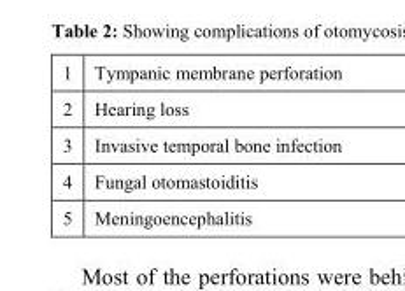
<table><tbody><tr><td>1</td><td>Tympanic membrane perforation</td></tr><tr><td>2</td><td>Hearing loss</td></tr><tr><td>3</td><td>Invasive temporal bone infection</td></tr><tr><td>4</td><td>Fungal otomastoiditis</td></tr><tr><td>5</td><td>Meningoencephalitis</td></tr></tbody></table>